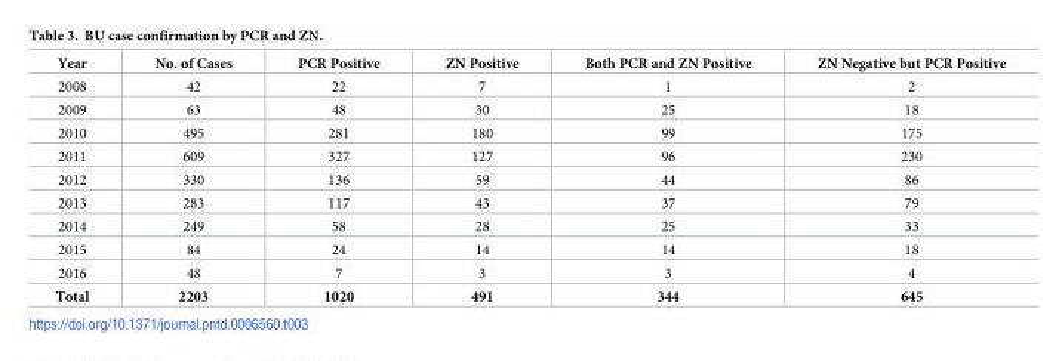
<table><thead><tr><td>Year</td><td>No. of Cases</td><td>PCR Positive</td><td>ZN Positive</td><td>Both PCR and ZN Positive</td><td>ZN Negative but PCR Positive</td></tr></thead><tbody><tr><td>2008</td><td>42</td><td>22</td><td>7</td><td>1</td><td>2</td></tr><tr><td>2009</td><td>63</td><td>48</td><td>30</td><td>25</td><td>18</td></tr><tr><td>2010</td><td>495</td><td>281</td><td>180</td><td>99</td><td>175</td></tr><tr><td>2011</td><td>609</td><td>327</td><td>127</td><td>96</td><td>230</td></tr><tr><td>2012</td><td>330</td><td>136</td><td>59</td><td>44</td><td>86</td></tr><tr><td>2013</td><td>283</td><td>117</td><td>43</td><td>37</td><td>79</td></tr><tr><td>2014</td><td>249</td><td>58</td><td>28</td><td>25</td><td>33</td></tr><tr><td>2015</td><td>84</td><td>24</td><td>14</td><td>14</td><td>18</td></tr><tr><td>2016</td><td>48</td><td>7</td><td>3</td><td>3</td><td>4</td></tr><tr><td>Total</td><td>2203</td><td>1020</td><td>491</td><td>344</td><td>645</td></tr></tbody></table>